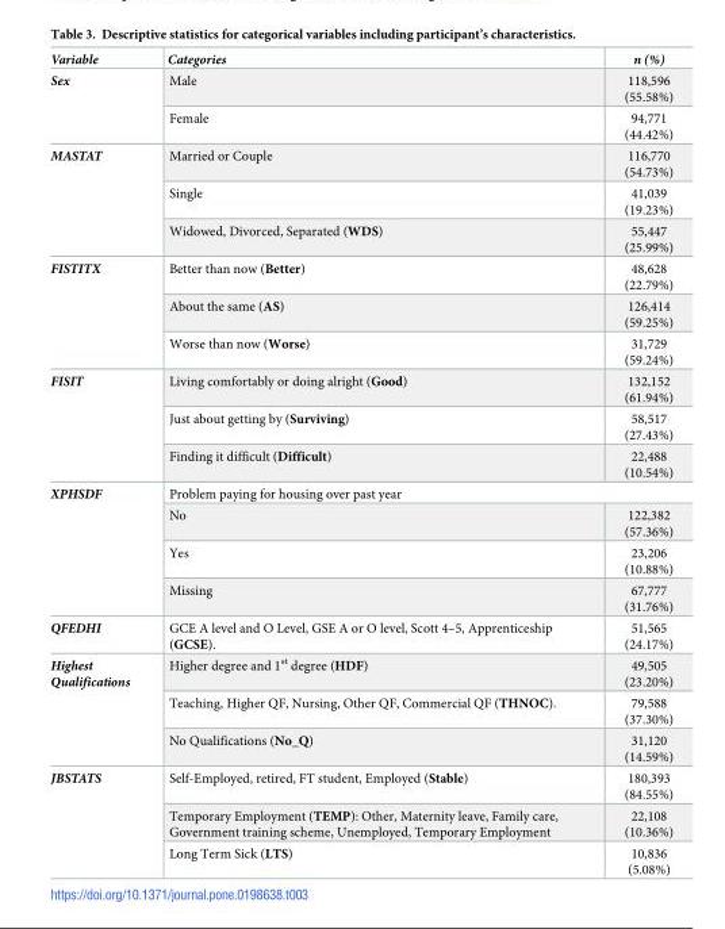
<table><thead><tr><td>Variable</td><td>Categories</td><td>n (%)</td></tr></thead><tbody><tr><td rowspan="2">Sex</td><td>Male</td><td>118,596 (55.58%)</td></tr><tr><td>Female</td><td>94,771 (44.42%)</td></tr><tr><td rowspan="3">MASTAT</td><td>Married or Couple</td><td>116,770 (54.73%)</td></tr><tr><td>Single</td><td>41,039 (19.23%)</td></tr><tr><td>Widowed, Divorced, Separated (WDS)</td><td>55,447 (25.99%)</td></tr><tr><td rowspan="3">FISTITX</td><td>Better than now (Better)</td><td>48,628 (22.79%)</td></tr><tr><td>About the same (AS)</td><td>126,414 (59.25%)</td></tr><tr><td>Worse than now (Worse)</td><td>31,729 (59.24%)</td></tr><tr><td rowspan="3">FISIT</td><td>Living comfortably or doing alright (Good)</td><td>132,152 (61.94%)</td></tr><tr><td>Just about getting by (Surviving)</td><td>58,517 (27.43%)</td></tr><tr><td>Finding it difficult (Difficult)</td><td>22,488 (10.54%)</td></tr><tr><td rowspan="4">XPHSDF</td><td colspan="2">Problem paying for housing over past year</td></tr><tr><td>No</td><td>122,382 (57.36%)</td></tr><tr><td>Yes</td><td>23,206 (10.88%)</td></tr><tr><td>Missing</td><td>67,777 (31.76%)</td></tr><tr><td>QFEDHI</td><td>GCE A level and O Level, GSE A or O level, Scott 4–5, Apprenticeship (GCSE).</td><td>51,565 (24.17%)</td></tr><tr><td rowspan="3">Highest Qualifications</td><td>Higher degree and 1<sup>st</sup> degree (HDF)</td><td>49,505 (23.20%)</td></tr><tr><td>Teaching, Higher QF, Nursing, Other QF, Commercial QF (THNOC).</td><td>79,588 (37.30%)</td></tr><tr><td>No Qualifications (No_Q)</td><td>31,120 (14.59%)</td></tr><tr><td rowspan="3">JBSTATS</td><td>Self-Employed, retired, FT student, Employed (Stable)</td><td>180,393 (84.55%)</td></tr><tr><td>Temporary Employment (TEMP): Other, Maternity leave, Family care, Government training scheme, Unemployed, Temporary Employment</td><td>22,108 (10.36%)</td></tr><tr><td>Long Term Sick (LTS)</td><td>10,836 (5.08%)</td></tr></tbody></table>